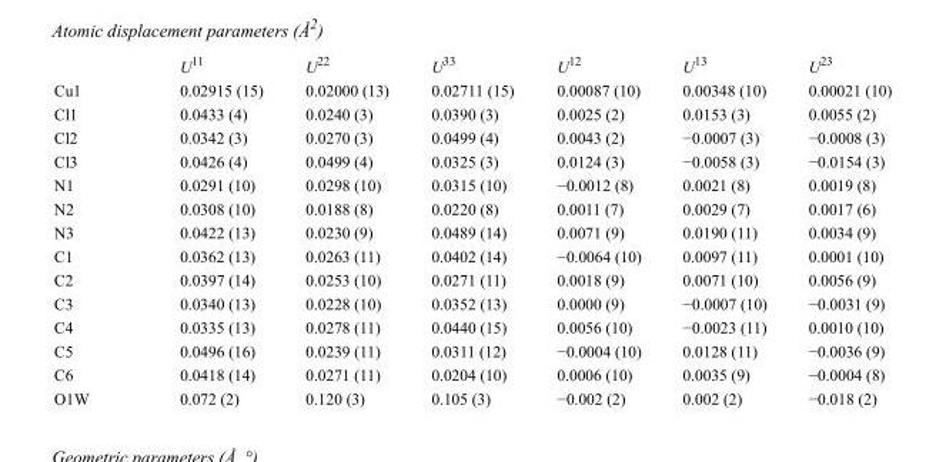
<table><thead><tr><td></td><td>U<sup>11</sup></td><td>U<sup>22</sup></td><td>U<sup>33</sup></td><td>U<sup>12</sup></td><td>U<sup>13</sup></td><td>U<sup>23</sup></td></tr></thead><tbody><tr><td>Cu1</td><td>0.02915 (15)</td><td>0.02000 (13)</td><td>0.02711 (15)</td><td>0.00087 (10)</td><td>0.00348 (10)</td><td>0.00021 (10)</td></tr><tr><td>Cl1</td><td>0.0433 (4)</td><td>0.0240 (3)</td><td>0.0390 (3)</td><td>0.0025 (2)</td><td>0.0153 (3)</td><td>0.0055 (2)</td></tr><tr><td>Cl2</td><td>0.0342 (3)</td><td>0.0270 (3)</td><td>0.0499 (4)</td><td>0.0043 (2)</td><td>−0.0007 (3)</td><td>−0.0008 (3)</td></tr><tr><td>Cl3</td><td>0.0426 (4)</td><td>0.0499 (4)</td><td>0.0325 (3)</td><td>0.0124 (3)</td><td>−0.0058 (3)</td><td>−0.0154 (3)</td></tr><tr><td>N1</td><td>0.0291 (10)</td><td>0.0298 (10)</td><td>0.0315 (10)</td><td>−0.0012 (8)</td><td>0.0021 (8)</td><td>0.0019 (8)</td></tr><tr><td>N2</td><td>0.0308 (10)</td><td>0.0188 (8)</td><td>0.0220 (8)</td><td>0.0011 (7)</td><td>0.0029 (7)</td><td>0.0017 (6)</td></tr><tr><td>N3</td><td>0.0422 (13)</td><td>0.0230 (9)</td><td>0.0489 (14)</td><td>0.0071 (9)</td><td>0.0190 (11)</td><td>0.0034 (9)</td></tr><tr><td>C1</td><td>0.0362 (13)</td><td>0.0263 (11)</td><td>0.0402 (14)</td><td>−0.0064 (10)</td><td>0.0097 (11)</td><td>0.0001 (10)</td></tr><tr><td>C2</td><td>0.0397 (14)</td><td>0.0253 (10)</td><td>0.0271 (11)</td><td>0.0018 (9)</td><td>0.0071 (10)</td><td>0.0056 (9)</td></tr><tr><td>C3</td><td>0.0340 (13)</td><td>0.0228 (10)</td><td>0.0352 (13)</td><td>0.0000 (9)</td><td>−0.0007 (10)</td><td>−0.0031 (9)</td></tr><tr><td>C4</td><td>0.0335 (13)</td><td>0.0278 (11)</td><td>0.0440 (15)</td><td>0.0056 (10)</td><td>−0.0023 (11)</td><td>0.0010 (10)</td></tr><tr><td>C5</td><td>0.0496 (16)</td><td>0.0239 (11)</td><td>0.0311 (12)</td><td>−0.0004 (10)</td><td>0.0128 (11)</td><td>−0.0036 (9)</td></tr><tr><td>C6</td><td>0.0418 (14)</td><td>0.0271 (11)</td><td>0.0204 (10)</td><td>0.0006 (10)</td><td>0.0035 (9)</td><td>−0.0004 (8)</td></tr><tr><td>O1W</td><td>0.072 (2)</td><td>0.120 (3)</td><td>0.105 (3)</td><td>−0.002 (2)</td><td>0.002 (2)</td><td>−0.018 (2)</td></tr></tbody></table>